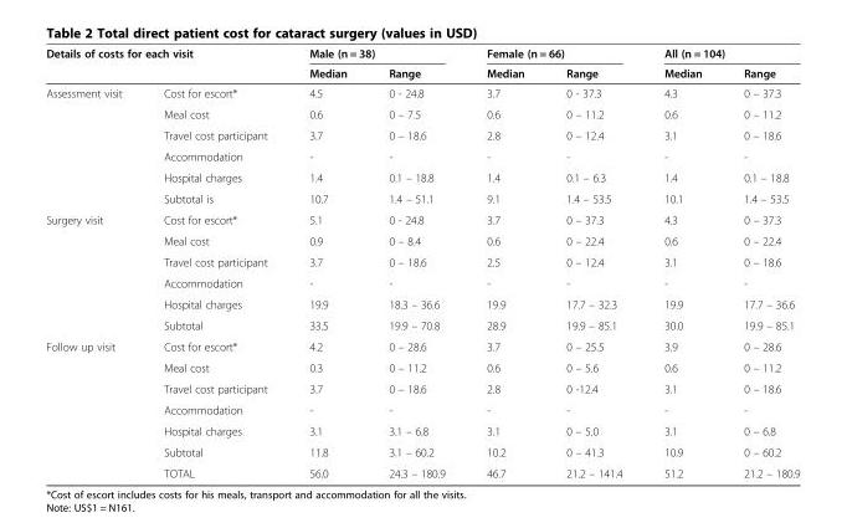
<table><thead><tr><td colspan="2">Details of costs for each visit</td><td colspan="2">Male (n = 38)</td><td colspan="2">Female (n = 66)</td><td colspan="2">All (n = 104)</td></tr><tr><td></td><td></td><td>Median</td><td>Range</td><td>Median</td><td>Range</td><td>Median</td><td>Range</td></tr></thead><tbody><tr><td rowspan="6">Assessment visit</td><td>Cost for escort*</td><td>4.5</td><td>0 - 24.8</td><td>3.7</td><td>0 - 37.3</td><td>4.3</td><td>0 – 37.3</td></tr><tr><td>Meal cost</td><td>0.6</td><td>0 – 7.5</td><td>0.6</td><td>0 – 11.2</td><td>0.6</td><td>0 – 11.2</td></tr><tr><td>Travel cost participant</td><td>3.7</td><td>0 – 18.6</td><td>2.8</td><td>0 – 12.4</td><td>3.1</td><td>0 – 18.6</td></tr><tr><td>Accommodation</td><td>-</td><td>-</td><td>-</td><td>-</td><td>-</td><td>-</td></tr><tr><td>Hospital charges</td><td>1.4</td><td>0.1 – 18.8</td><td>1.4</td><td>0.1 – 6.3</td><td>1.4</td><td>0.1 – 18.8</td></tr><tr><td>Subtotal is</td><td>10.7</td><td>1.4 – 51.1</td><td>9.1</td><td>1.4 – 53.5</td><td>10.1</td><td>1.4 – 53.5</td></tr><tr><td rowspan="6">Surgery visit</td><td>Cost for escort*</td><td>5.1</td><td>0 - 24.8</td><td>3.7</td><td>0 – 37.3</td><td>4.3</td><td>0 – 37.3</td></tr><tr><td>Meal cost</td><td>0.9</td><td>0 – 8.4</td><td>0.6</td><td>0 – 22.4</td><td>0.6</td><td>0 – 22.4</td></tr><tr><td>Travel cost participant</td><td>3.7</td><td>0 – 18.6</td><td>2.5</td><td>0 – 12.4</td><td>3.1</td><td>0 – 18.6</td></tr><tr><td>Accommodation</td><td>-</td><td>-</td><td>-</td><td>-</td><td>-</td><td>-</td></tr><tr><td>Hospital charges</td><td>19.9</td><td>18.3 – 36.6</td><td>19.9</td><td>17.7 – 32.3</td><td>19.9</td><td>17.7 – 36.6</td></tr><tr><td>Subtotal</td><td>33.5</td><td>19.9 – 70.8</td><td>28.9</td><td>19.9 – 85.1</td><td>30.0</td><td>19.9 – 85.1</td></tr><tr><td rowspan="7">Follow up visit</td><td>Cost for escort*</td><td>4.2</td><td>0 – 28.6</td><td>3.7</td><td>0 – 25.5</td><td>3.9</td><td>0 – 28.6</td></tr><tr><td>Meal cost</td><td>0.3</td><td>0 – 11.2</td><td>0.6</td><td>0 – 5.6</td><td>0.6</td><td>0 – 11.2</td></tr><tr><td>Travel cost participant</td><td>3.7</td><td>0 – 18.6</td><td>2.8</td><td>0 -12.4</td><td>3.1</td><td>0 – 18.6</td></tr><tr><td>Accommodation</td><td>-</td><td>-</td><td>-</td><td>-</td><td>-</td><td>-</td></tr><tr><td>Hospital charges</td><td>3.1</td><td>3.1 – 6.8</td><td>3.1</td><td>0 – 5.0</td><td>3.1</td><td>0 – 6.8</td></tr><tr><td>Subtotal</td><td>11.8</td><td>3.1 – 60.2</td><td>10.2</td><td>0 – 41.3</td><td>10.9</td><td>0 – 60.2</td></tr><tr><td>TOTAL</td><td>56.0</td><td>24.3 – 180.9</td><td>46.7</td><td>21.2 – 141.4</td><td>51.2</td><td>21.2 – 180.9</td></tr></tbody></table>